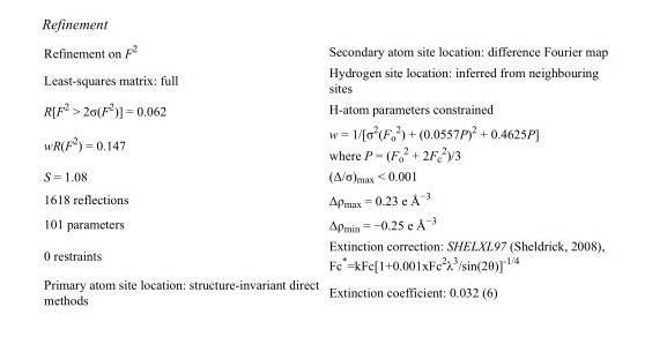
<table><tbody><tr><td>Refinement on F<sup>2</sup></td><td>Secondary atom site location: difference Fourier map</td></tr><tr><td>Least-squares matrix: full</td><td>Hydrogen site location: inferred from neighbouring sites</td></tr><tr><td>R[F<sup>2</sup> &gt; 2σ(F<sup>2</sup>)] = 0.062</td><td>H-atom parameters constrained</td></tr><tr><td>wR(F<sup>2</sup>) = 0.147</td><td>w = 1/[σ<sup>2</sup>(F<sub>o</sub> <sup>2</sup>) + (0.0557P)<sup>2</sup> + 0.4625P] where P = (F<sub>o</sub> <sup>2</sup> + 2F<sub>c</sub> <sup>2</sup>)/3</td></tr><tr><td>S = 1.08</td><td>(Δ/σ)<sub>max</sub> &lt; 0.001</td></tr><tr><td>1618 reflections</td><td>Δρ<sub>max</sub> = 0.23 e Å<sup>−3</sup></td></tr><tr><td>101 parameters</td><td>Δρ<sub>min</sub> = −0.25 e Å<sup>−3</sup></td></tr><tr><td>0 restraints</td><td>Extinction correction: SHELXL97 (Sheldrick, 2008), Fc*=kFc[1+0.001xFc<sup>2</sup>λ<sup>3</sup>/sin(2θ)]<sup>-1/4</sup></td></tr><tr><td>Primary atom site location: structure-invariant direct methods</td><td>Extinction coefficient: 0.032 (6)</td></tr></tbody></table>